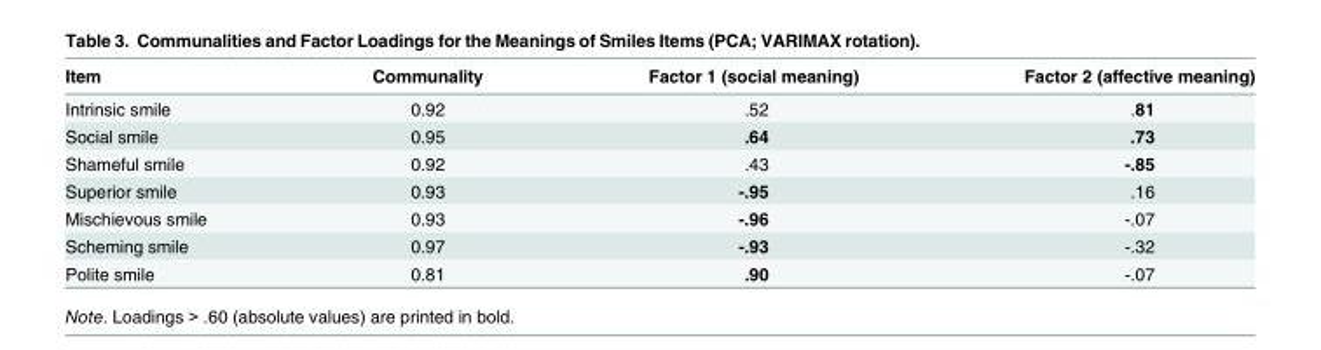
<table><thead><tr><td>Item</td><td>Communality</td><td>Factor 1 (social meaning)</td><td>Factor 2 (affective meaning)</td></tr></thead><tbody><tr><td>Intrinsic smile</td><td>0.92</td><td>.52</td><td>.81</td></tr><tr><td>Social smile</td><td>0.95</td><td>.64</td><td>.73</td></tr><tr><td>Shameful smile</td><td>0.92</td><td>.43</td><td>-.85</td></tr><tr><td>Superior smile</td><td>0.93</td><td>-.95</td><td>.16</td></tr><tr><td>Mischievous smile</td><td>0.93</td><td>-.96</td><td>-.07</td></tr><tr><td>Scheming smile</td><td>0.97</td><td>-.93</td><td>-.32</td></tr><tr><td>Polite smile</td><td>0.81</td><td>.90</td><td>-.07</td></tr></tbody></table>